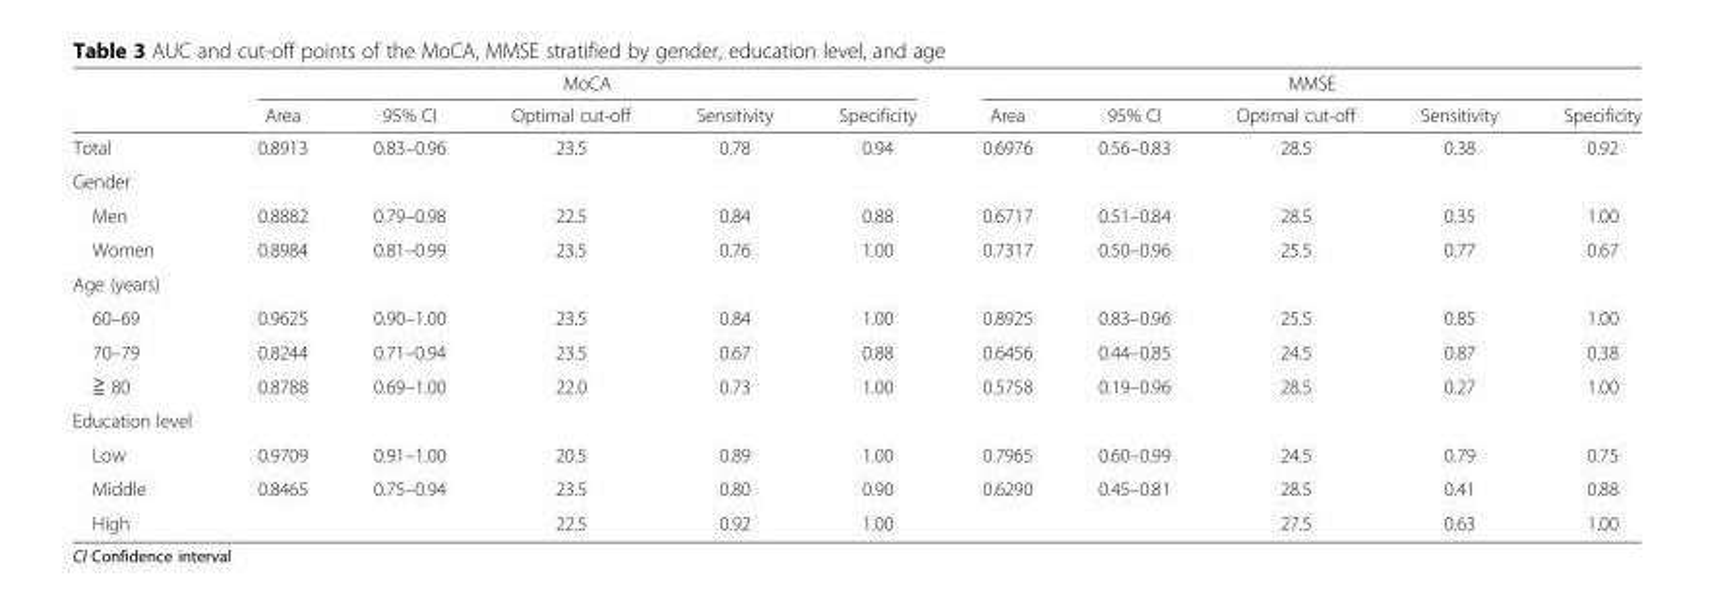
<table><thead><tr><td rowspan="2"></td><td colspan="5">MoCA</td><td colspan="5">MMSE</td></tr><tr><td>Area</td><td>95% CI</td><td>Optimal cut-off</td><td>Sensitivity</td><td>Specificity</td><td>Area</td><td>95% CI</td><td>Optimal cut-off</td><td>Sensitivity</td><td>Specificity</td></tr></thead><tbody><tr><td>Total</td><td>0.8913</td><td>0.83–0.96</td><td>23.5</td><td>0.78</td><td>0.94</td><td>0.6976</td><td>0.56–0.83</td><td>28.5</td><td>0.38</td><td>0.92</td></tr><tr><td colspan="11">Gender</td></tr><tr><td>Men</td><td>0.8882</td><td>0.79–0.98</td><td>22.5</td><td>0.84</td><td>0.88</td><td>0.6717</td><td>0.51–0.84</td><td>28.5</td><td>0.35</td><td>1.00</td></tr><tr><td>Women</td><td>0.8984</td><td>0.81–0.99</td><td>23.5</td><td>0.76</td><td>1.00</td><td>0.7317</td><td>0.50–0.96</td><td>25.5</td><td>0.77</td><td>0.67</td></tr><tr><td colspan="11">Age (years)</td></tr><tr><td>60–69</td><td>0.9625</td><td>0.90–1.00</td><td>23.5</td><td>0.84</td><td>1.00</td><td>0.8925</td><td>0.83–0.96</td><td>25.5</td><td>0.85</td><td>1.00</td></tr><tr><td>70–79</td><td>0.8244</td><td>0.71–0.94</td><td>23.5</td><td>0.67</td><td>0.88</td><td>0.6456</td><td>0.44–0.85</td><td>24.5</td><td>0.87</td><td>0.38</td></tr><tr><td>≧ 80</td><td>0.8788</td><td>0.69–1.00</td><td>22.0</td><td>0.73</td><td>1.00</td><td>0.5758</td><td>0.19–0.96</td><td>28.5</td><td>0.27</td><td>1.00</td></tr><tr><td colspan="11">Education level</td></tr><tr><td>Low</td><td>0.9709</td><td>0.91–1.00</td><td>20.5</td><td>0.89</td><td>1.00</td><td>0.7965</td><td>0.60–0.99</td><td>24.5</td><td>0.79</td><td>0.75</td></tr><tr><td>Middle</td><td>0.8465</td><td>0.75–0.94</td><td>23.5</td><td>0.80</td><td>0.90</td><td>0.6290</td><td>0.45–0.81</td><td>28.5</td><td>0.41</td><td>0.88</td></tr><tr><td>High</td><td></td><td></td><td>22.5</td><td>0.92</td><td>1.00</td><td></td><td></td><td>27.5</td><td>0.63</td><td>1.00</td></tr></tbody></table>